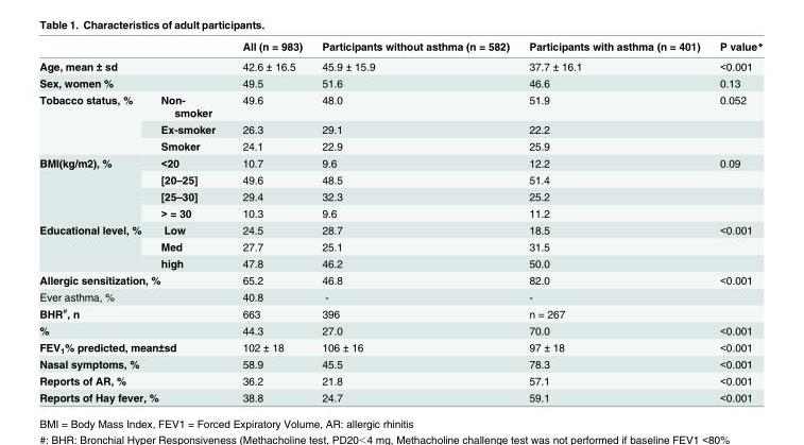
<table><thead><tr><td></td><td></td><td>All (n = 983)</td><td>Participants without asthma (n = 582)</td><td>Participants with asthma (n = 401)</td><td>P value*</td></tr></thead><tbody><tr><td colspan="2">Age, mean ± sd</td><td>42.6 ± 16.5</td><td>45.9 ± 15.9</td><td>37.7 ± 16.1</td><td>&lt;0.001</td></tr><tr><td colspan="2">Sex, women %</td><td>49.5</td><td>51.6</td><td>46.6</td><td>0.13</td></tr><tr><td rowspan="3">Tobacco status, %</td><td>Non- smoker</td><td>49.6</td><td>48.0</td><td>51.9</td><td>0.052</td></tr><tr><td>Ex-smoker</td><td>26.3</td><td>29.1</td><td>22.2</td><td></td></tr><tr><td>Smoker</td><td>24.1</td><td>22.9</td><td>25.9</td><td></td></tr><tr><td rowspan="4">BMI(kg/m2), %</td><td>&lt;20</td><td>10.7</td><td>9.6</td><td>12.2</td><td>0.09</td></tr><tr><td>[20–25]</td><td>49.6</td><td>48.5</td><td>51.4</td><td></td></tr><tr><td>[25–30]</td><td>29.4</td><td>32.3</td><td>25.2</td><td></td></tr><tr><td>&gt; = 30</td><td>10.3</td><td>9.6</td><td>11.2</td><td></td></tr><tr><td rowspan="3">Educational level, %</td><td>Low</td><td>24.5</td><td>28.7</td><td>18.5</td><td>&lt;0.001</td></tr><tr><td>Med</td><td>27.7</td><td>25.1</td><td>31.5</td><td></td></tr><tr><td>high</td><td>47.8</td><td>46.2</td><td>50.0</td><td></td></tr><tr><td colspan="2">Allergic sensitization, %</td><td>65.2</td><td>46.8</td><td>82.0</td><td>&lt;0.001</td></tr><tr><td colspan="2">Ever asthma, %</td><td>40.8</td><td>-</td><td>-</td><td></td></tr><tr><td colspan="2">BHR<sup>#</sup>, n</td><td>663</td><td>396</td><td>n = 267</td><td></td></tr><tr><td colspan="2">%</td><td>44.3</td><td>27.0</td><td>70.0</td><td>&lt;0.001</td></tr><tr><td colspan="2">FEV<sub>1</sub>% predicted, mean±sd</td><td>102 ± 18</td><td>106 ± 16</td><td>97 ± 18</td><td>&lt;0.001</td></tr><tr><td colspan="2">Nasal symptoms, %</td><td>58.9</td><td>45.5</td><td>78.3</td><td>&lt;0.001</td></tr><tr><td colspan="2">Reports of AR, %</td><td>36.2</td><td>21.8</td><td>57.1</td><td>&lt;0.001</td></tr><tr><td colspan="2">Reports of Hay fever, %</td><td>38.8</td><td>24.7</td><td>59.1</td><td>&lt;0.001</td></tr></tbody></table>